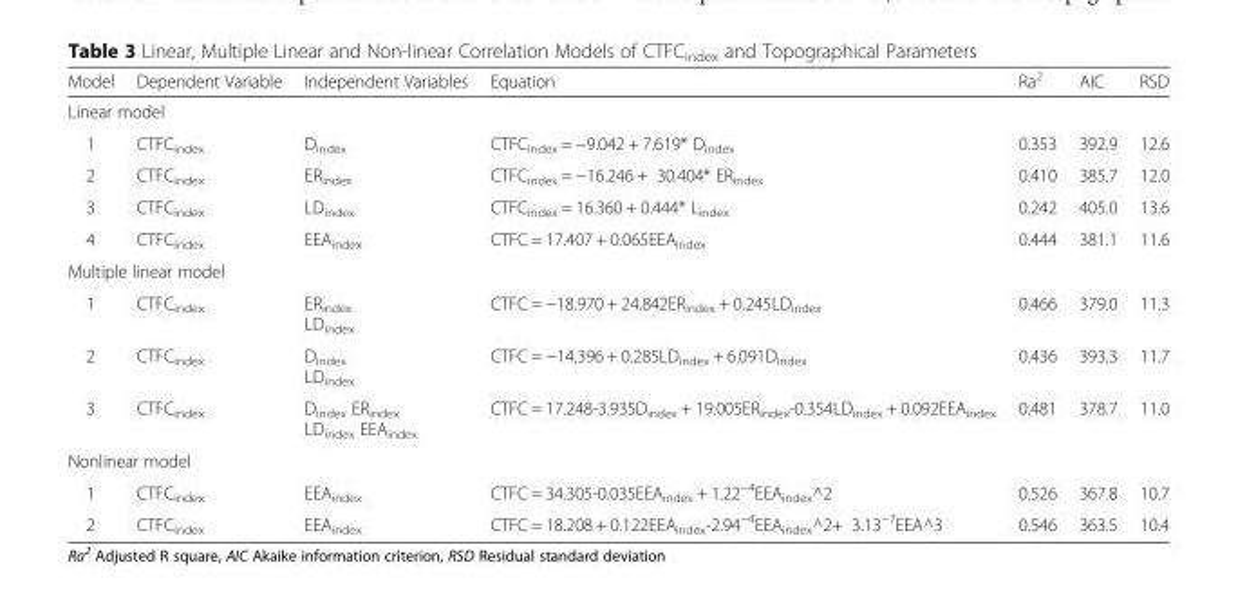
<table><thead><tr><td>Model</td><td>Dependent Variable</td><td>Independent Variables</td><td>Equation</td><td>Ra<sup>2</sup></td><td>AIC</td><td>RSD</td></tr></thead><tbody><tr><td colspan="7">Linear model</td></tr><tr><td>1</td><td>CTFC<sub>index</sub></td><td>D<sub>index</sub></td><td>CTFC<sub>index</sub> = −9.042 + 7.619* D<sub>index</sub></td><td>0.353</td><td>392.9</td><td>12.6</td></tr><tr><td>2</td><td>CTFC<sub>index</sub></td><td>ER<sub>index</sub></td><td>CTFC<sub>index</sub> = −16.246 + 30.404* ER<sub>index</sub></td><td>0.410</td><td>385.7</td><td>12.0</td></tr><tr><td>3</td><td>CTFC<sub>index</sub></td><td>LD<sub>index</sub></td><td>CTFC<sub>index</sub> = 16.360 + 0.444* L<sub>index</sub></td><td>0.242</td><td>405.0</td><td>13.6</td></tr><tr><td>4</td><td>CTFC<sub>index</sub></td><td>EEA<sub>index</sub></td><td>CTFC = 17.407 + 0.065EEA<sub>index</sub></td><td>0.444</td><td>381.1</td><td>11.6</td></tr><tr><td colspan="7">Multiple linear model</td></tr><tr><td>1</td><td>CTFC<sub>index</sub></td><td>ER<sub>index</sub> LD<sub>index</sub></td><td>CTFC = −18.970 + 24.842ER<sub>index</sub> + 0.245LD<sub>index</sub></td><td>0.466</td><td>379.0</td><td>11.3</td></tr><tr><td>2</td><td>CTFC<sub>index</sub></td><td>D<sub>index</sub> LD<sub>index</sub></td><td>CTFC = −14.396 + 0.285LD<sub>index</sub> + 6.091D<sub>index</sub></td><td>0.436</td><td>393.3</td><td>11.7</td></tr><tr><td>3</td><td>CTFC<sub>index</sub></td><td>D<sub>index</sub> ER<sub>index</sub> LD<sub>index</sub> EEA<sub>index</sub></td><td>CTFC = 17.248-3.935D<sub>index</sub> + 19.005ER<sub>index</sub>-0.354LD<sub>index</sub> + 0.092EEA<sub>index</sub></td><td>0.481</td><td>378.7</td><td>11.0</td></tr><tr><td colspan="7">Nonlinear model</td></tr><tr><td>1</td><td>CTFC<sub>index</sub></td><td>EEA<sub>index</sub></td><td>CTFC = 34.305-0.035EEA<sub>index</sub> + 1.22<sup>−4</sup>EEA<sub>index</sub>^2</td><td>0.526</td><td>367.8</td><td>10.7</td></tr><tr><td>2</td><td>CTFC<sub>index</sub></td><td>EEA<sub>index</sub></td><td>CTFC = 18.208 + 0.122EEA<sub>index</sub>-2.94<sup>−4</sup>EEA<sub>index</sub>^2+ 3.13<sup>−7</sup>EEA^3</td><td>0.546</td><td>363.5</td><td>10.4</td></tr></tbody></table>